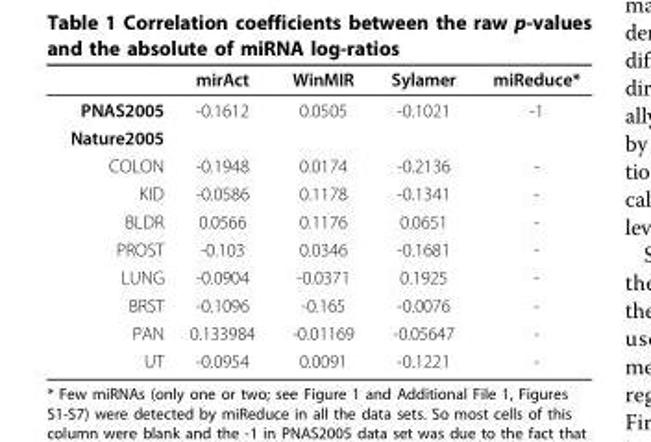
<table><thead><tr><td></td><td>mirAct</td><td>WinMIR</td><td>Sylamer</td><td>miReduce*</td></tr></thead><tbody><tr><td>PNAS2005</td><td>-0.1612</td><td>0.0505</td><td>-0.1021</td><td>-1</td></tr><tr><td colspan="5">Nature2005</td></tr><tr><td>COLON</td><td>-0.1948</td><td>0.0174</td><td>-0.2136</td><td>-</td></tr><tr><td>KID</td><td>-0.0586</td><td>0.1178</td><td>-0.1341</td><td>-</td></tr><tr><td>BLDR</td><td>0.0566</td><td>0.1176</td><td>0.0651</td><td>-</td></tr><tr><td>PROST</td><td>-0.103</td><td>0.0346</td><td>-0.1681</td><td>-</td></tr><tr><td>LUNG</td><td>-0.0904</td><td>-0.0371</td><td>0.1925</td><td>-</td></tr><tr><td>BRST</td><td>-0.1096</td><td>-0.165</td><td>-0.0076</td><td>-</td></tr><tr><td>PAN</td><td>0.133984</td><td>-0.01169</td><td>-0.05647</td><td>-</td></tr><tr><td>UT</td><td>-0.0954</td><td>0.0091</td><td>-0.1221</td><td>-</td></tr></tbody></table>